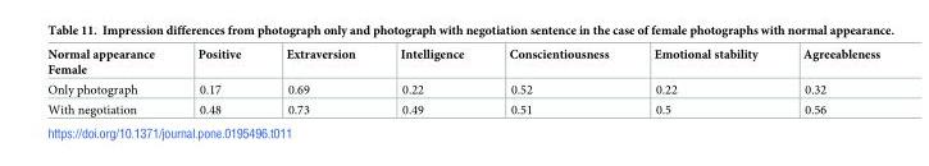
<table><thead><tr><td>Normal appearance Female</td><td>Positive</td><td>Extraversion</td><td>Intelligence</td><td>Conscientiousness</td><td>Emotional stability</td><td>Agreeableness</td></tr></thead><tbody><tr><td>Only photograph</td><td>0.17</td><td>0.69</td><td>0.22</td><td>0.52</td><td>0.22</td><td>0.32</td></tr><tr><td>With negotiation</td><td>0.48</td><td>0.73</td><td>0.49</td><td>0.51</td><td>0.5</td><td>0.56</td></tr></tbody></table>